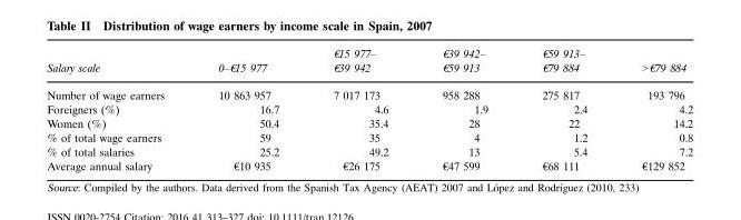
<table><thead><tr><td>Salary scale</td><td>0–€15 977</td><td>€15 977– €39 942</td><td>€39 942– €59 913</td><td>€59 913– €79 884</td><td>&gt;€79 884</td></tr></thead><tbody><tr><td>Number of wage earners</td><td>10 863 957</td><td>7 017 173</td><td>958 288</td><td>275 817</td><td>193 796</td></tr><tr><td>Foreigners (%)</td><td>16.7</td><td>4.6</td><td>1.9</td><td>2.4</td><td>4.2</td></tr><tr><td>Women (%)</td><td>50.4</td><td>35.4</td><td>28</td><td>22</td><td>14.2</td></tr><tr><td>% of total wage earners</td><td>59</td><td>35</td><td>4</td><td>1.2</td><td>0.8</td></tr><tr><td>% of total salaries</td><td>25.2</td><td>49.2</td><td>13</td><td>5.4</td><td>7.2</td></tr><tr><td>Average annual salary</td><td>€10 935</td><td>€26 175</td><td>€47 599</td><td>€68 111</td><td>€129 852</td></tr></tbody></table>